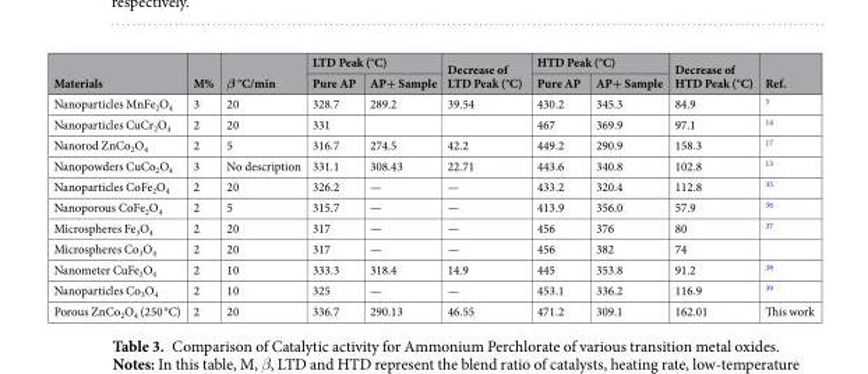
<table><thead><tr><td rowspan="2">Materials</td><td rowspan="2">M%</td><td rowspan="2">β °C/min</td><td colspan="2">LTD Peak (°C)</td><td rowspan="2">Decrease of LTD Peak (°C)</td><td colspan="2">HTD Peak (°C)</td><td rowspan="2">Decrease of HTD Peak (°C)</td><td rowspan="2">Ref.</td></tr><tr><td>Pure AP</td><td>AP+ Sample</td><td>Pure AP</td><td>AP+ Sample</td></tr></thead><tbody><tr><td>Nanoparticles MnFe<sub>2</sub>O<sub>4</sub></td><td>3</td><td>20</td><td>328.7</td><td>289.2</td><td>39.54</td><td>430.2</td><td>345.3</td><td>84.9</td><td><sup>5</sup></td></tr><tr><td>Nanoparticles CuCr<sub>2</sub>O<sub>4</sub></td><td>2</td><td>20</td><td>331</td><td></td><td></td><td>467</td><td>369.9</td><td>97.1</td><td><sup>14</sup></td></tr><tr><td>Nanorod ZnCo<sub>2</sub>O<sub>4</sub></td><td>2</td><td>5</td><td>316.7</td><td>274.5</td><td>42.2</td><td>449.2</td><td>290.9</td><td>158.3</td><td><sup>17</sup></td></tr><tr><td>Nanopowders CuCo<sub>2</sub>O<sub>4</sub></td><td>3</td><td>No description</td><td>331.1</td><td>308.43</td><td>22.71</td><td>443.6</td><td>340.8</td><td>102.8</td><td><sup>13</sup></td></tr><tr><td>Nanoparticles CoFe<sub>2</sub>O<sub>4</sub></td><td>2</td><td>20</td><td>326.2</td><td>—</td><td>—</td><td>433.2</td><td>320.4</td><td>112.8</td><td><sup>35</sup></td></tr><tr><td>Nanoporous CoFe<sub>2</sub>O<sub>4</sub></td><td>2</td><td>5</td><td>315.7</td><td>—</td><td>—</td><td>413.9</td><td>356.0</td><td>57.9</td><td><sup>36</sup></td></tr><tr><td>Microspheres Fe<sub>3</sub>O<sub>4</sub></td><td>2</td><td>20</td><td>317</td><td>—</td><td>—</td><td>456</td><td>376</td><td>80</td><td><sup>37</sup></td></tr><tr><td>Microspheres Co<sub>3</sub>O<sub>4</sub></td><td>2</td><td>20</td><td>317</td><td>—</td><td>—</td><td>456</td><td>382</td><td>74</td><td></td></tr><tr><td>Nanometer CuFe<sub>2</sub>O<sub>4</sub></td><td>2</td><td>10</td><td>333.3</td><td>318.4</td><td>14.9</td><td>445</td><td>353.8</td><td>91.2</td><td><sup>38</sup></td></tr><tr><td>Nanoparticles Co<sub>3</sub>O<sub>4</sub></td><td>2</td><td>10</td><td>325</td><td>—</td><td>—</td><td>453.1</td><td>336.2</td><td>116.9</td><td><sup>39</sup></td></tr><tr><td>Porous ZnCo<sub>2</sub>O<sub>4</sub> (250 °C)</td><td>2</td><td>20</td><td>336.7</td><td>290.13</td><td>46.55</td><td>471.2</td><td>309.1</td><td>162.01</td><td>This work</td></tr></tbody></table>